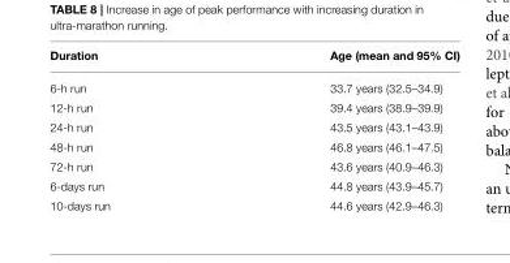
<table><thead><tr><td>Duration</td><td>Age (mean and 95% CI)</td></tr></thead><tbody><tr><td>6-h run</td><td>33.7 years (32.5–34.9)</td></tr><tr><td>12-h run</td><td>39.4 years (38.9–39.9)</td></tr><tr><td>24-h run</td><td>43.5 years (43.1–43.9)</td></tr><tr><td>48-h run</td><td>46.8 years (46.1–47.5)</td></tr><tr><td>72-h run</td><td>43.6 years (40.9–46.3)</td></tr><tr><td>6-days run</td><td>44.8 years (43.9–45.7)</td></tr><tr><td>10-days run</td><td>44.6 years (42.9–46.3)</td></tr></tbody></table>